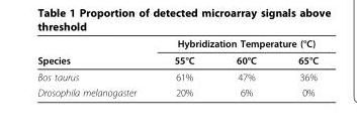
<table><thead><tr><td rowspan="2">Species</td><td colspan="3">Hybridization Temperature (°C)</td></tr><tr><td>55°C</td><td>60°C</td><td>65°C</td></tr></thead><tbody><tr><td>Bos taurus</td><td>61%</td><td>47%</td><td>36%</td></tr><tr><td>Drosophila melanogaster</td><td>20%</td><td>6%</td><td>0%</td></tr></tbody></table>